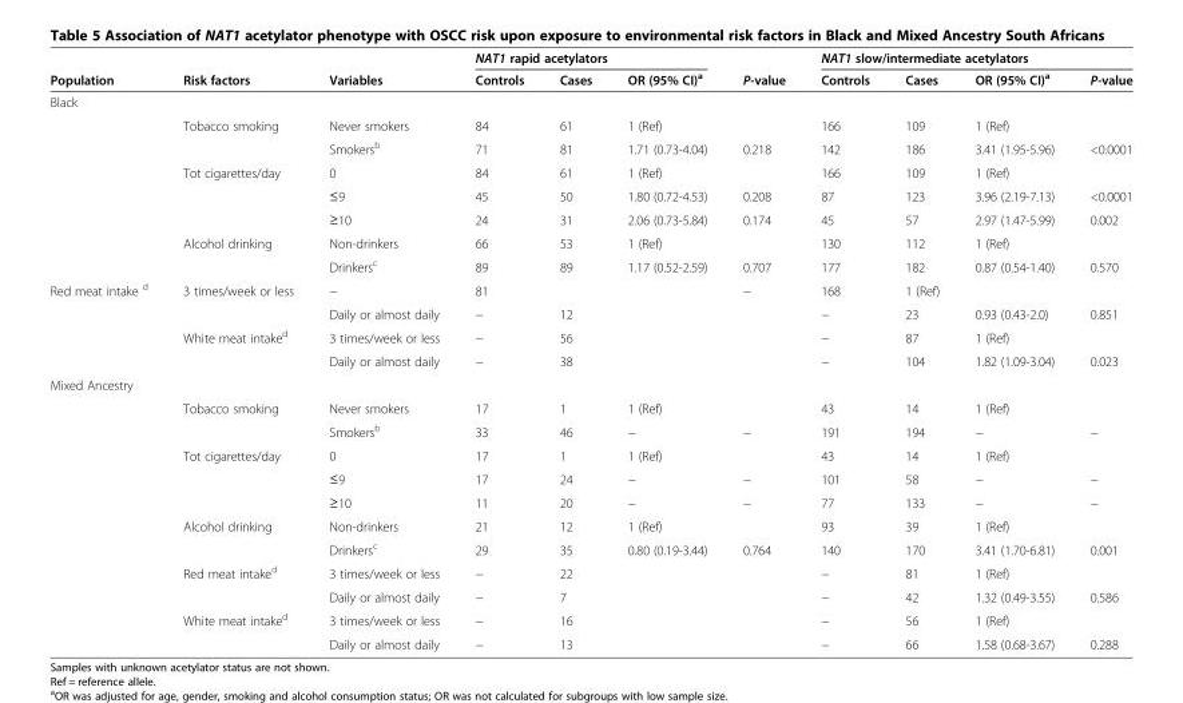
<table><thead><tr><td rowspan="2">Population</td><td rowspan="2">Risk factors</td><td rowspan="2">Variables</td><td colspan="3">NAT1 rapid acetylators</td><td rowspan="2">P-value</td><td colspan="4">NAT1 slow/intermediate acetylators</td></tr><tr><td>Controls</td><td>Cases</td><td>OR (95% CI)<sup>a</sup></td><td>Controls</td><td>Cases</td><td>OR (95% CI)<sup>a</sup></td><td>P-value</td></tr></thead><tbody><tr><td colspan="11">Black</td></tr><tr><td></td><td>Tobacco smoking</td><td>Never smokers</td><td>84</td><td>61</td><td>1 (Ref)</td><td></td><td>166</td><td>109</td><td>1 (Ref)</td><td></td></tr><tr><td></td><td></td><td>Smokers<sup>b</sup></td><td>71</td><td>81</td><td>1.71 (0.73-4.04)</td><td>0.218</td><td>142</td><td>186</td><td>3.41 (1.95-5.96)</td><td>&lt;0.0001</td></tr><tr><td></td><td>Tot cigarettes/day</td><td>0</td><td>84</td><td>61</td><td>1 (Ref)</td><td></td><td>166</td><td>109</td><td>1 (Ref)</td><td></td></tr><tr><td></td><td></td><td>≤9</td><td>45</td><td>50</td><td>1.80 (0.72-4.53)</td><td>0.208</td><td>87</td><td>123</td><td>3.96 (2.19-7.13)</td><td>&lt;0.0001</td></tr><tr><td></td><td></td><td>≥10</td><td>24</td><td>31</td><td>2.06 (0.73-5.84)</td><td>0.174</td><td>45</td><td>57</td><td>2.97 (1.47-5.99)</td><td>0.002</td></tr><tr><td></td><td>Alcohol drinking</td><td>Non-drinkers</td><td>66</td><td>53</td><td>1 (Ref)</td><td></td><td>130</td><td>112</td><td>1 (Ref)</td><td></td></tr><tr><td></td><td></td><td>Drinkers<sup>c</sup></td><td>89</td><td>89</td><td>1.17 (0.52-2.59)</td><td>0.707</td><td>177</td><td>182</td><td>0.87 (0.54-1.40)</td><td>0.570</td></tr><tr><td rowspan="4">Red meat intake <sup>d</sup></td><td>3 times/week or less</td><td>−</td><td>81</td><td></td><td></td><td>−</td><td>168</td><td>1 (Ref)</td><td></td><td></td></tr><tr><td></td><td>Daily or almost daily</td><td>−</td><td>12</td><td></td><td></td><td>−</td><td>23</td><td>0.93 (0.43-2.0)</td><td>0.851</td></tr><tr><td>White meat intake<sup>d</sup></td><td>3 times/week or less</td><td>−</td><td>56</td><td></td><td></td><td>−</td><td>87</td><td>1 (Ref)</td><td></td></tr><tr><td></td><td>Daily or almost daily</td><td>−</td><td>38</td><td></td><td></td><td>−</td><td>104</td><td>1.82 (1.09-3.04)</td><td>0.023</td></tr><tr><td colspan="11">Mixed Ancestry</td></tr><tr><td></td><td>Tobacco smoking</td><td>Never smokers</td><td>17</td><td>1</td><td>1 (Ref)</td><td></td><td>43</td><td>14</td><td>1 (Ref)</td><td></td></tr><tr><td></td><td></td><td>Smokers<sup>b</sup></td><td>33</td><td>46</td><td>−</td><td>−</td><td>191</td><td>194</td><td>−</td><td>−</td></tr><tr><td></td><td>Tot cigarettes/day</td><td>0</td><td>17</td><td>1</td><td>1 (Ref)</td><td></td><td>43</td><td>14</td><td>1 (Ref)</td><td></td></tr><tr><td></td><td></td><td>≤9</td><td>17</td><td>24</td><td>−</td><td>−</td><td>101</td><td>58</td><td>−</td><td>−</td></tr><tr><td></td><td></td><td>≥10</td><td>11</td><td>20</td><td>−</td><td>−</td><td>77</td><td>133</td><td>−</td><td>−</td></tr><tr><td></td><td>Alcohol drinking</td><td>Non-drinkers</td><td>21</td><td>12</td><td>1 (Ref)</td><td></td><td>93</td><td>39</td><td>1 (Ref)</td><td></td></tr><tr><td></td><td></td><td>Drinkers<sup>c</sup></td><td>29</td><td>35</td><td>0.80 (0.19-3.44)</td><td>0.764</td><td>140</td><td>170</td><td>3.41 (1.70-6.81)</td><td>0.001</td></tr><tr><td></td><td>Red meat intake<sup>d</sup></td><td>3 times/week or less</td><td>−</td><td>22</td><td></td><td></td><td>−</td><td>81</td><td>1 (Ref)</td><td></td></tr><tr><td></td><td></td><td>Daily or almost daily</td><td>−</td><td>7</td><td></td><td></td><td>−</td><td>42</td><td>1.32 (0.49-3.55)</td><td>0.586</td></tr><tr><td></td><td>White meat intake<sup>d</sup></td><td>3 times/week or less</td><td>−</td><td>16</td><td></td><td></td><td>−</td><td>56</td><td>1 (Ref)</td><td></td></tr><tr><td></td><td></td><td>Daily or almost daily</td><td>−</td><td>13</td><td></td><td></td><td>−</td><td>66</td><td>1.58 (0.68-3.67)</td><td>0.288</td></tr></tbody></table>